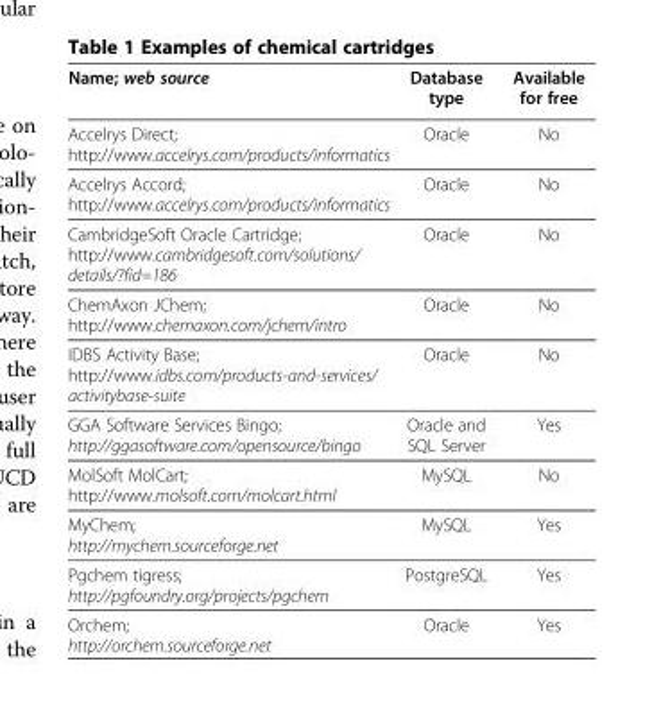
<table><thead><tr><td>Name; web source</td><td>Database type</td><td>Available for free</td></tr></thead><tbody><tr><td>Accelrys Direct; http://www.accelrys.com/products/informatics</td><td>Oracle</td><td>No</td></tr><tr><td>Accelrys Accord; http://www.accelrys.com/products/informatics</td><td>Oracle</td><td>No</td></tr><tr><td>CambridgeSoft Oracle Cartridge; http://www.cambridgesoft.com/solutions/ details/?fid=186</td><td>Oracle</td><td>No</td></tr><tr><td>ChemAxon JChem; http://www.chemaxon.com/jchem/intro</td><td>Oracle</td><td>No</td></tr><tr><td>IDBS Activity Base; http://www.idbs.com/products-and-services/ activitybase-suite</td><td>Oracle</td><td>No</td></tr><tr><td>GGA Software Services Bingo; http://ggasoftware.com/opensource/bingo</td><td>Oracle and SQL Server</td><td>Yes</td></tr><tr><td>MolSoft MolCart; http://www.molsoft.com/molcart.html</td><td>MySQL</td><td>No</td></tr><tr><td>MyChem; http://mychem.sourceforge.net</td><td>MySQL</td><td>Yes</td></tr><tr><td>Pgchem tigress; http://pgfoundry.org/projects/pgchem</td><td>PostgreSQL</td><td>Yes</td></tr><tr><td>Orchem; http://orchem.sourceforge.net</td><td>Oracle</td><td>Yes</td></tr></tbody></table>